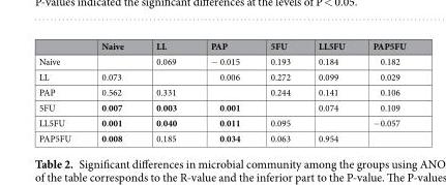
<table><thead><tr><td></td><td>Naive</td><td>LL</td><td>PAP</td><td>5FU</td><td>LL5FU</td><td>PAP5FU</td></tr></thead><tbody><tr><td>Naive</td><td></td><td>0.069</td><td>− 0.015</td><td>0.193</td><td>0.184</td><td>0.182</td></tr><tr><td>LL</td><td>0.073</td><td></td><td>0.006</td><td>0.272</td><td>0.099</td><td>0.029</td></tr><tr><td>PAP</td><td>0.562</td><td>0.331</td><td></td><td>0.244</td><td>0.141</td><td>0.106</td></tr><tr><td>5FU</td><td>0.007</td><td>0.003</td><td>0.001</td><td></td><td>0.074</td><td>0.109</td></tr><tr><td>LL5FU</td><td>0.001</td><td>0.040</td><td>0.011</td><td>0.095</td><td></td><td>−0.057</td></tr><tr><td>PAP5FU</td><td>0.008</td><td>0.185</td><td>0.034</td><td>0.063</td><td>0.954</td><td></td></tr></tbody></table>